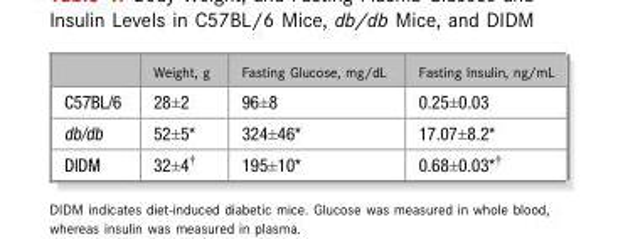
<table><thead><tr><td></td><td>Weight, g</td><td>Fasting Glucose, mg/dL</td><td>Fasting Insulin, ng/mL</td></tr></thead><tbody><tr><td>C57BL/6</td><td>28±2</td><td>96±8</td><td>0.25±0.03</td></tr><tr><td>db/db</td><td>52±5*</td><td>324±46*</td><td>17.07±8.2*</td></tr><tr><td>DIDM</td><td>32±4†</td><td>195±10*</td><td>0.68±0.03*†</td></tr></tbody></table>